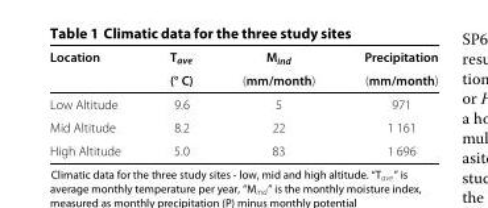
<table><thead><tr><td rowspan="2">Location</td><td rowspan="2">T<sub>ave</sub> (° C)</td><td rowspan="2">M<sub>ind</sub> (mm/month)</td><td rowspan="2">Precipitation (mm/month)</td></tr><tr></tr></thead><tbody><tr><td>Low Altitude</td><td>9.6</td><td>5</td><td>971</td></tr><tr><td>Mid Altitude</td><td>8.2</td><td>22</td><td>1 161</td></tr><tr><td>High Altitude</td><td>5.0</td><td>83</td><td>1 696</td></tr></tbody></table>